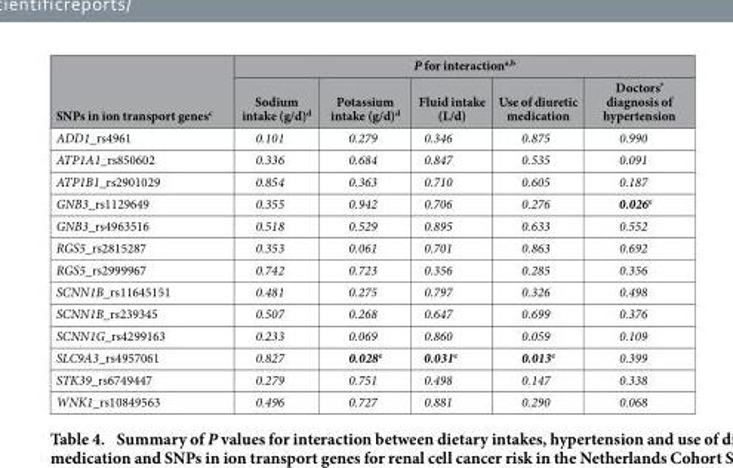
<table><thead><tr><td rowspan="2">SNPs in ion transport genes<sup>c</sup></td><td colspan="5">P for interaction<sup>a,b</sup></td></tr><tr><td>Sodium intake (g/d)<sup>d</sup></td><td>Potassium intake (g/d)<sup>d</sup></td><td>Fluid intake (L/d)</td><td>Use of diuretic medication</td><td>Doctors’ diagnosis of hypertension</td></tr></thead><tbody><tr><td>ADD1_rs4961</td><td>0.101</td><td>0.279</td><td>0.346</td><td>0.875</td><td>0.990</td></tr><tr><td>ATP1A1_rs850602</td><td>0.336</td><td>0.684</td><td>0.847</td><td>0.535</td><td>0.091</td></tr><tr><td>ATP1B1_rs2901029</td><td>0.854</td><td>0.363</td><td>0.710</td><td>0.605</td><td>0.187</td></tr><tr><td>GNB3_rs1129649</td><td>0.355</td><td>0.942</td><td>0.706</td><td>0.276</td><td>0.026<sup>e</sup></td></tr><tr><td>GNB3_rs4963516</td><td>0.518</td><td>0.529</td><td>0.895</td><td>0.633</td><td>0.552</td></tr><tr><td>RGS5_rs2815287</td><td>0.353</td><td>0.061</td><td>0.701</td><td>0.863</td><td>0.692</td></tr><tr><td>RGS5_rs2999967</td><td>0.742</td><td>0.723</td><td>0.356</td><td>0.285</td><td>0.356</td></tr><tr><td>SCNN1B_rs11645151</td><td>0.481</td><td>0.275</td><td>0.797</td><td>0.326</td><td>0.498</td></tr><tr><td>SCNN1B_rs239345</td><td>0.507</td><td>0.268</td><td>0.647</td><td>0.699</td><td>0.376</td></tr><tr><td>SCNN1G_rs4299163</td><td>0.233</td><td>0.069</td><td>0.860</td><td>0.059</td><td>0.109</td></tr><tr><td>SLC9A3_rs4957061</td><td>0.827</td><td>0.028<sup>e</sup></td><td>0.031<sup>e</sup></td><td>0.013<sup>e</sup></td><td>0.399</td></tr><tr><td>STK39_rs6749447</td><td>0.279</td><td>0.751</td><td>0.498</td><td>0.147</td><td>0.338</td></tr><tr><td>WNK1_rs10849563</td><td>0.496</td><td>0.727</td><td>0.881</td><td>0.290</td><td>0.068</td></tr></tbody></table>